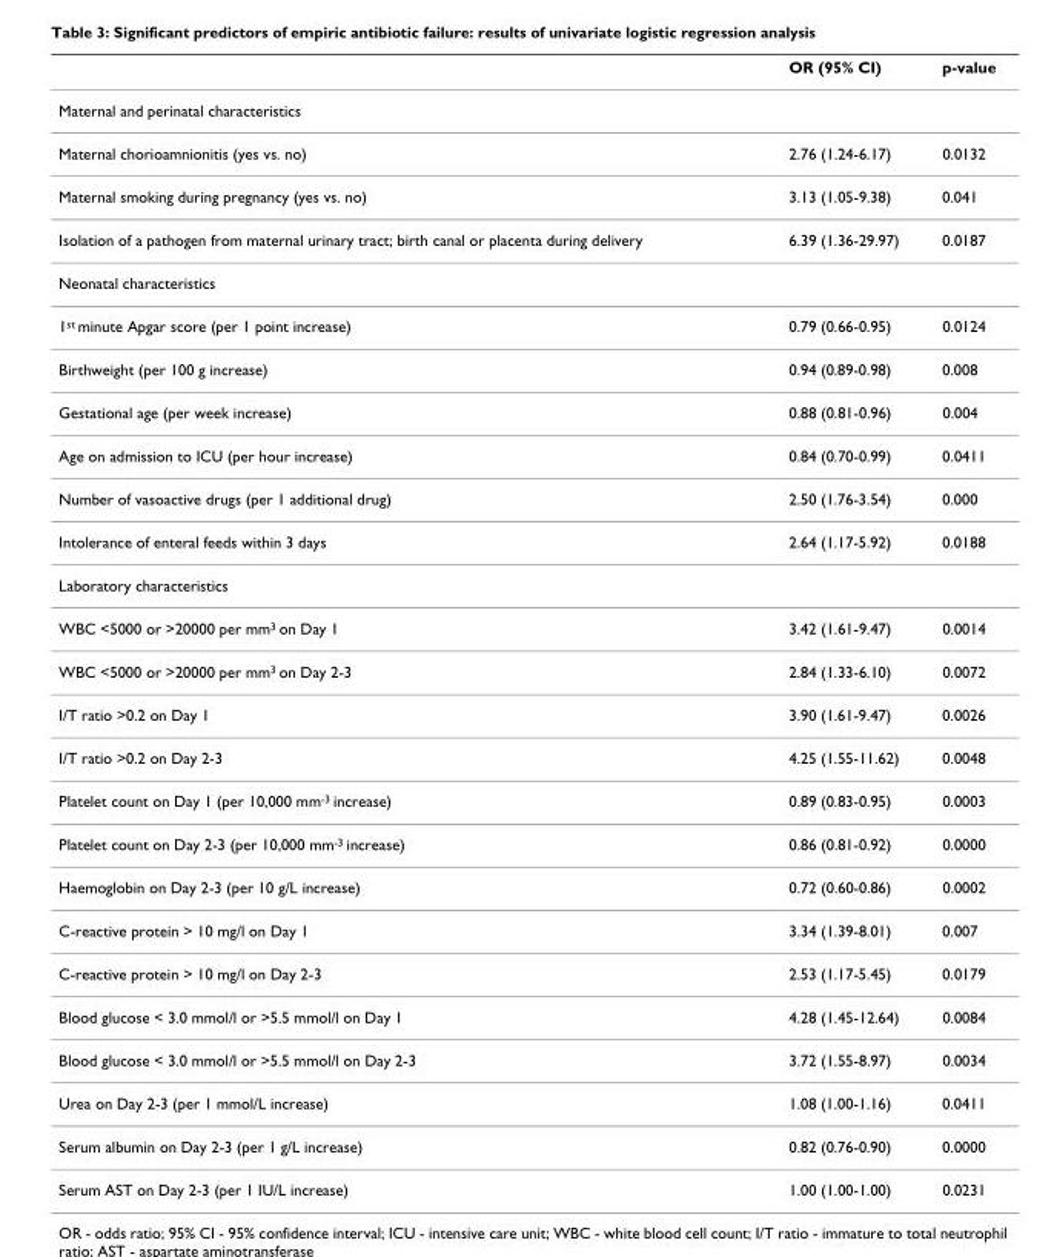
<table><thead><tr><td></td><td>OR (95% CI)</td><td>p-value</td></tr></thead><tbody><tr><td colspan="3">Maternal and perinatal characteristics</td></tr><tr><td>Maternal chorioamnionitis (yes vs. no)</td><td>2.76 (1.24-6.17)</td><td>0.0132</td></tr><tr><td>Maternal smoking during pregnancy (yes vs. no)</td><td>3.13 (1.05-9.38)</td><td>0.041</td></tr><tr><td>Isolation of a pathogen from maternal urinary tract; birth canal or placenta during delivery</td><td>6.39 (1.36-29.97)</td><td>0.0187</td></tr><tr><td colspan="3">Neonatal characteristics</td></tr><tr><td>1st minute Apgar score (per 1 point increase)</td><td>0.79 (0.66-0.95)</td><td>0.0124</td></tr><tr><td>Birthweight (per 100 g increase)</td><td>0.94 (0.89-0.98)</td><td>0.008</td></tr><tr><td>Gestational age (per week increase)</td><td>0.88 (0.81-0.96)</td><td>0.004</td></tr><tr><td>Age on admission to ICU (per hour increase)</td><td>0.84 (0.70-0.99)</td><td>0.0411</td></tr><tr><td>Number of vasoactive drugs (per 1 additional drug)</td><td>2.50 (1.76-3.54)</td><td>0.000</td></tr><tr><td>Intolerance of enteral feeds within 3 days</td><td>2.64 (1.17-5.92)</td><td>0.0188</td></tr><tr><td colspan="3">Laboratory characteristics</td></tr><tr><td>WBC &lt;5000 or &gt;20000 per mm3 on Day 1</td><td>3.42 (1.61-9.47)</td><td>0.0014</td></tr><tr><td>WBC &lt;5000 or &gt;20000 per mm3 on Day 2-3</td><td>2.84 (1.33-6.10)</td><td>0.0072</td></tr><tr><td>I/T ratio &gt;0.2 on Day 1</td><td>3.90 (1.61-9.47)</td><td>0.0026</td></tr><tr><td>I/T ratio &gt;0.2 on Day 2-3</td><td>4.25 (1.55-11.62)</td><td>0.0048</td></tr><tr><td>Platelet count on Day 1 (per 10,000 mm-3 increase)</td><td>0.89 (0.83-0.95)</td><td>0.0003</td></tr><tr><td>Platelet count on Day 2-3 (per 10,000 mm-3 increase)</td><td>0.86 (0.81-0.92)</td><td>0.0000</td></tr><tr><td>Haemoglobin on Day 2-3 (per 10 g/L increase)</td><td>0.72 (0.60-0.86)</td><td>0.0002</td></tr><tr><td>C-reactive protein &gt; 10 mg/l on Day 1</td><td>3.34 (1.39-8.01)</td><td>0.007</td></tr><tr><td>C-reactive protein &gt; 10 mg/l on Day 2-3</td><td>2.53 (1.17-5.45)</td><td>0.0179</td></tr><tr><td>Blood glucose &lt; 3.0 mmol/l or &gt;5.5 mmol/l on Day 1</td><td>4.28 (1.45-12.64)</td><td>0.0084</td></tr><tr><td>Blood glucose &lt; 3.0 mmol/l or &gt;5.5 mmol/l on Day 2-3</td><td>3.72 (1.55-8.97)</td><td>0.0034</td></tr><tr><td>Urea on Day 2-3 (per 1 mmol/L increase)</td><td>1.08 (1.00-1.16)</td><td>0.0411</td></tr><tr><td>Serum albumin on Day 2-3 (per 1 g/L increase)</td><td>0.82 (0.76-0.90)</td><td>0.0000</td></tr><tr><td>Serum AST on Day 2-3 (per 1 IU/L increase)</td><td>1.00 (1.00-1.00)</td><td>0.0231</td></tr></tbody></table>